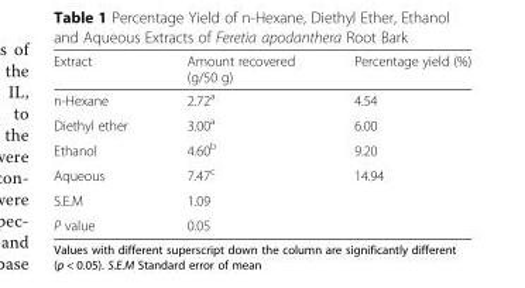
<table><thead><tr><td>Extract</td><td>Amount recovered (g/50 g)</td><td>Percentage yield (%)</td></tr></thead><tbody><tr><td>n-Hexane</td><td>2.72<sup>a</sup></td><td>4.54</td></tr><tr><td>Diethyl ether</td><td>3.00<sup>a</sup></td><td>6.00</td></tr><tr><td>Ethanol</td><td>4.60<sup>b</sup></td><td>9.20</td></tr><tr><td>Aqueous</td><td>7.47<sup>c</sup></td><td>14.94</td></tr><tr><td>S.E.M</td><td>1.09</td><td></td></tr><tr><td>P value</td><td>0.05</td><td></td></tr></tbody></table>